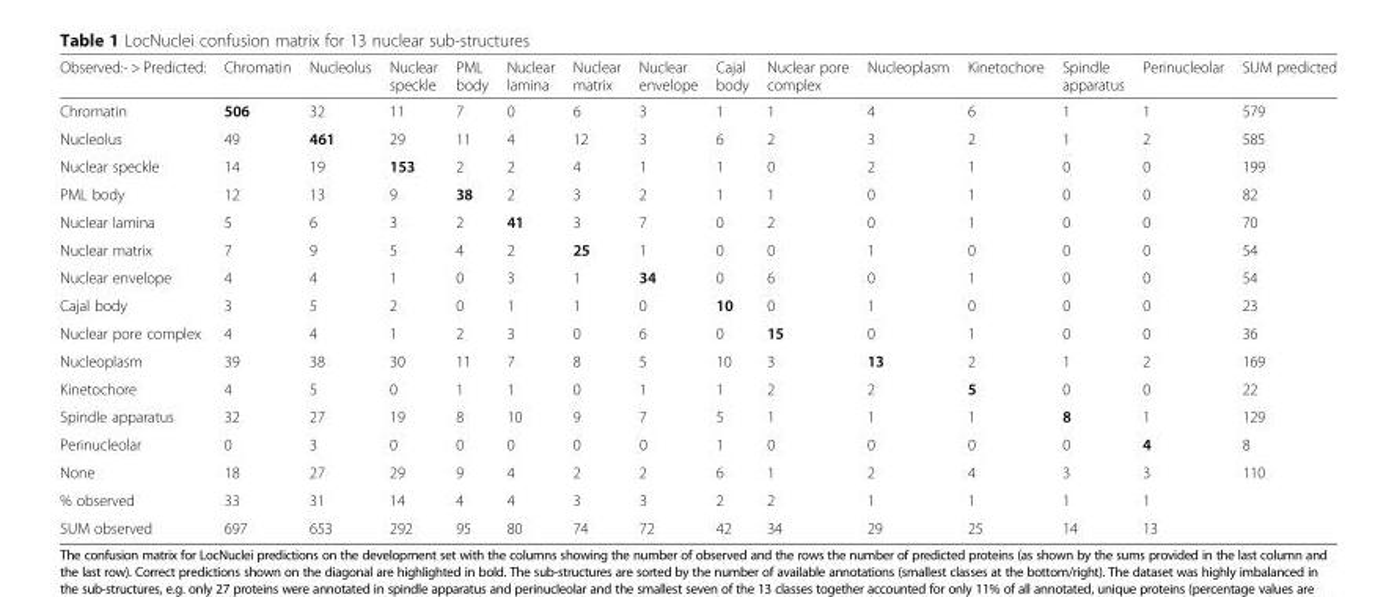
<table><thead><tr><td>Observed:- &gt; Predicted:</td><td>Chromatin</td><td>Nucleolus</td><td>Nuclear speckle</td><td>PML body</td><td>Nuclear lamina</td><td>Nuclear matrix</td><td>Nuclear envelope</td><td>Cajal body</td><td>Nuclear pore complex</td><td>Nucleoplasm</td><td>Kinetochore</td><td>Spindle apparatus</td><td>Perinucleolar</td><td>SUM predicted</td></tr></thead><tbody><tr><td>Chromatin</td><td>506</td><td>32</td><td>11</td><td>7</td><td>0</td><td>6</td><td>3</td><td>1</td><td>1</td><td>4</td><td>6</td><td>1</td><td>1</td><td>579</td></tr><tr><td>Nucleolus</td><td>49</td><td>461</td><td>29</td><td>11</td><td>4</td><td>12</td><td>3</td><td>6</td><td>2</td><td>3</td><td>2</td><td>1</td><td>2</td><td>585</td></tr><tr><td>Nuclear speckle</td><td>14</td><td>19</td><td>153</td><td>2</td><td>2</td><td>4</td><td>1</td><td>1</td><td>0</td><td>2</td><td>1</td><td>0</td><td>0</td><td>199</td></tr><tr><td>PML body</td><td>12</td><td>13</td><td>9</td><td>38</td><td>2</td><td>3</td><td>2</td><td>1</td><td>1</td><td>0</td><td>1</td><td>0</td><td>0</td><td>82</td></tr><tr><td>Nuclear lamina</td><td>5</td><td>6</td><td>3</td><td>2</td><td>41</td><td>3</td><td>7</td><td>0</td><td>2</td><td>0</td><td>1</td><td>0</td><td>0</td><td>70</td></tr><tr><td>Nuclear matrix</td><td>7</td><td>9</td><td>5</td><td>4</td><td>2</td><td>25</td><td>1</td><td>0</td><td>0</td><td>1</td><td>0</td><td>0</td><td>0</td><td>54</td></tr><tr><td>Nuclear envelope</td><td>4</td><td>4</td><td>1</td><td>0</td><td>3</td><td>1</td><td>34</td><td>0</td><td>6</td><td>0</td><td>1</td><td>0</td><td>0</td><td>54</td></tr><tr><td>Cajal body</td><td>3</td><td>5</td><td>2</td><td>0</td><td>1</td><td>1</td><td>0</td><td>10</td><td>0</td><td>1</td><td>0</td><td>0</td><td>0</td><td>23</td></tr><tr><td>Nuclear pore complex</td><td>4</td><td>4</td><td>1</td><td>2</td><td>3</td><td>0</td><td>6</td><td>0</td><td>15</td><td>0</td><td>1</td><td>0</td><td>0</td><td>36</td></tr><tr><td>Nucleoplasm</td><td>39</td><td>38</td><td>30</td><td>11</td><td>7</td><td>8</td><td>5</td><td>10</td><td>3</td><td>13</td><td>2</td><td>1</td><td>2</td><td>169</td></tr><tr><td>Kinetochore</td><td>4</td><td>5</td><td>0</td><td>1</td><td>1</td><td>0</td><td>1</td><td>1</td><td>2</td><td>2</td><td>5</td><td>0</td><td>0</td><td>22</td></tr><tr><td>Spindle apparatus</td><td>32</td><td>27</td><td>19</td><td>8</td><td>10</td><td>9</td><td>7</td><td>5</td><td>1</td><td>1</td><td>1</td><td>8</td><td>1</td><td>129</td></tr><tr><td>Perinucleolar</td><td>0</td><td>3</td><td>0</td><td>0</td><td>0</td><td>0</td><td>0</td><td>1</td><td>0</td><td>0</td><td>0</td><td>0</td><td>4</td><td>8</td></tr><tr><td>None</td><td>18</td><td>27</td><td>29</td><td>9</td><td>4</td><td>2</td><td>2</td><td>6</td><td>1</td><td>2</td><td>4</td><td>3</td><td>3</td><td>110</td></tr><tr><td>% observed</td><td>33</td><td>31</td><td>14</td><td>4</td><td>4</td><td>3</td><td>3</td><td>2</td><td>2</td><td>1</td><td>1</td><td>1</td><td>1</td><td></td></tr><tr><td>SUM observed</td><td>697</td><td>653</td><td>292</td><td>95</td><td>80</td><td>74</td><td>72</td><td>42</td><td>34</td><td>29</td><td>25</td><td>14</td><td>13</td><td></td></tr></tbody></table>